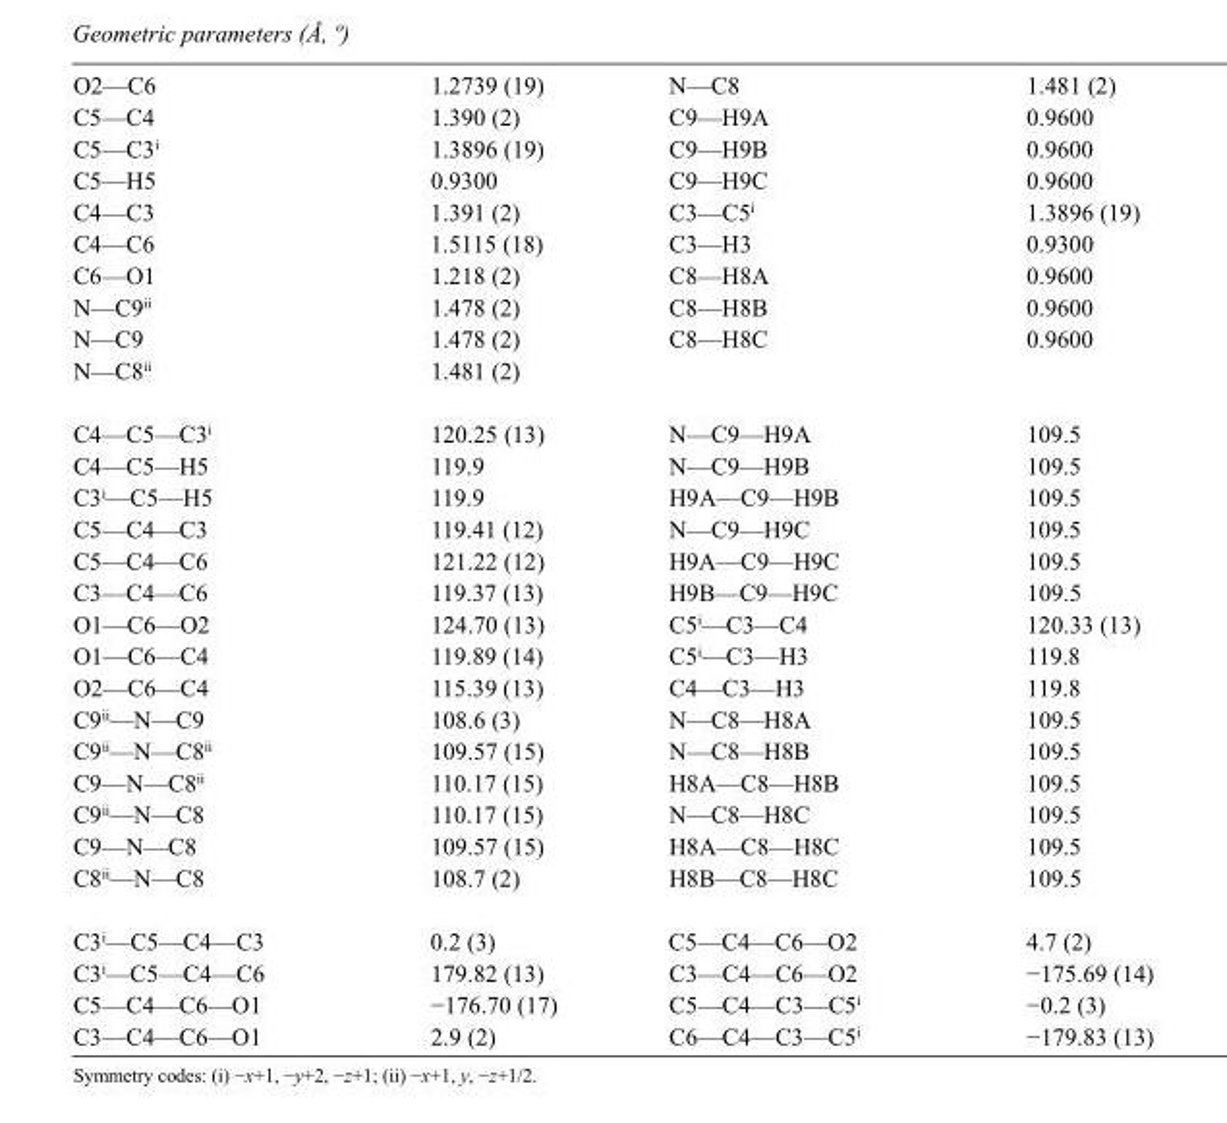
<table><tbody><tr><td>O2—C6</td><td>1.2739 (19)</td><td>N—C8</td><td>1.481 (2)</td></tr><tr><td>C5—C4</td><td>1.390 (2)</td><td>C9—H9A</td><td>0.9600</td></tr><tr><td>C5—C3<sup>i</sup></td><td>1.3896 (19)</td><td>C9—H9B</td><td>0.9600</td></tr><tr><td>C5—H5</td><td>0.9300</td><td>C9—H9C</td><td>0.9600</td></tr><tr><td>C4—C3</td><td>1.391 (2)</td><td>C3—C5<sup>i</sup></td><td>1.3896 (19)</td></tr><tr><td>C4—C6</td><td>1.5115 (18)</td><td>C3—H3</td><td>0.9300</td></tr><tr><td>C6—O1</td><td>1.218 (2)</td><td>C8—H8A</td><td>0.9600</td></tr><tr><td>N—C9<sup>ii</sup></td><td>1.478 (2)</td><td>C8—H8B</td><td>0.9600</td></tr><tr><td>N—C9</td><td>1.478 (2)</td><td>C8—H8C</td><td>0.9600</td></tr><tr><td>N—C8<sup>ii</sup></td><td>1.481 (2)</td><td></td><td></td></tr><tr><td>C4—C5—C3<sup>i</sup></td><td>120.25 (13)</td><td>N—C9—H9A</td><td>109.5</td></tr><tr><td>C4—C5—H5</td><td>119.9</td><td>N—C9—H9B</td><td>109.5</td></tr><tr><td>C3<sup>i</sup>—C5—H5</td><td>119.9</td><td>H9A—C9—H9B</td><td>109.5</td></tr><tr><td>C5—C4—C3</td><td>119.41 (12)</td><td>N—C9—H9C</td><td>109.5</td></tr><tr><td>C5—C4—C6</td><td>121.22 (12)</td><td>H9A—C9—H9C</td><td>109.5</td></tr><tr><td>C3—C4—C6</td><td>119.37 (13)</td><td>H9B—C9—H9C</td><td>109.5</td></tr><tr><td>O1—C6—O2</td><td>124.70 (13)</td><td>C5<sup>i</sup>—C3—C4</td><td>120.33 (13)</td></tr><tr><td>O1—C6—C4</td><td>119.89 (14)</td><td>C5<sup>i</sup>—C3—H3</td><td>119.8</td></tr><tr><td>O2—C6—C4</td><td>115.39 (13)</td><td>C4—C3—H3</td><td>119.8</td></tr><tr><td>C9<sup>ii</sup>—N—C9</td><td>108.6 (3)</td><td>N—C8—H8A</td><td>109.5</td></tr><tr><td>C9<sup>ii</sup>—N—C8<sup>ii</sup></td><td>109.57 (15)</td><td>N—C8—H8B</td><td>109.5</td></tr><tr><td>C9—N—C8<sup>ii</sup></td><td>110.17 (15)</td><td>H8A—C8—H8B</td><td>109.5</td></tr><tr><td>C9<sup>ii</sup>—N—C8</td><td>110.17 (15)</td><td>N—C8—H8C</td><td>109.5</td></tr><tr><td>C9—N—C8</td><td>109.57 (15)</td><td>H8A—C8—H8C</td><td>109.5</td></tr><tr><td>C8<sup>ii</sup>—N—C8</td><td>108.7 (2)</td><td>H8B—C8—H8C</td><td>109.5</td></tr><tr><td>C3<sup>i</sup>—C5—C4—C3</td><td>0.2 (3)</td><td>C5—C4—C6—O2</td><td>4.7 (2)</td></tr><tr><td>C3<sup>i</sup>—C5—C4—C6</td><td>179.82 (13)</td><td>C3—C4—C6—O2</td><td>−175.69 (14)</td></tr><tr><td>C5—C4—C6—O1</td><td>−176.70 (17)</td><td>C5—C4—C3—C5<sup>i</sup></td><td>−0.2 (3)</td></tr><tr><td>C3—C4—C6—O1</td><td>2.9 (2)</td><td>C6—C4—C3—C5<sup>i</sup></td><td>−179.83 (13)</td></tr></tbody></table>